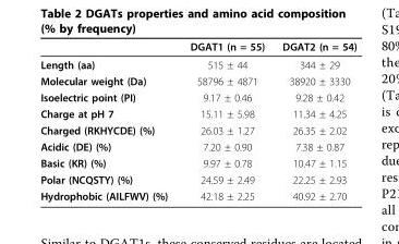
<table><thead><tr><td></td><td>DGAT1 (n = 55)</td><td>DGAT2 (n = 54)</td></tr></thead><tbody><tr><td>Length (aa)</td><td>515 ± 44</td><td>344 ± 29</td></tr><tr><td>Molecular weight (Da)</td><td>58796 ± 4871</td><td>38920 ± 3330</td></tr><tr><td>Isoelectric point (PI)</td><td>9.17 ± 0.46</td><td>9.28 ± 0.42</td></tr><tr><td>Charge at pH 7</td><td>15.11 ± 5.98</td><td>11.34 ± 4.25</td></tr><tr><td>Charged (RKHYCDE) (%)</td><td>26.03 ± 1.27</td><td>26.35 ± 2.02</td></tr><tr><td>Acidic (DE) (%)</td><td>7.20 ± 0.90</td><td>7.38 ± 0.87</td></tr><tr><td>Basic (KR) (%)</td><td>9.97 ± 0.78</td><td>10.47 ± 1.15</td></tr><tr><td>Polar (NCQSTY) (%)</td><td>24.59 ± 2.49</td><td>22.25 ± 2.93</td></tr><tr><td>Hydrophobic (AILFWV) (%)</td><td>42.18 ± 2.25</td><td>40.92 ± 2.70</td></tr></tbody></table>